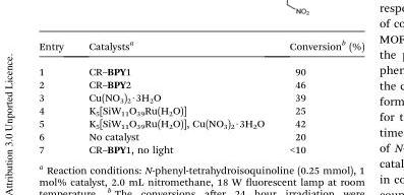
<table><thead><tr><td>Entry</td><td>Catalysts<sup>a</sup></td><td>Conversion<sup>b</sup> (%)</td></tr></thead><tbody><tr><td>1</td><td>CR–BPY1</td><td>90</td></tr><tr><td>2</td><td>CR–BPY2</td><td>46</td></tr><tr><td>3</td><td>Cu(NO<sub>3</sub>)<sub>2</sub>·3H<sub>2</sub>O</td><td>39</td></tr><tr><td>4</td><td>K<sub>5</sub>[SiW<sub>11</sub>O<sub>39</sub>Ru(H<sub>2</sub>O)]</td><td>25</td></tr><tr><td>5</td><td>K<sub>5</sub>[SiW<sub>11</sub>O<sub>39</sub>Ru(H<sub>2</sub>O)], Cu(NO<sub>3</sub>)<sub>2</sub>·3H<sub>2</sub>O</td><td>42</td></tr><tr><td>6</td><td>No catalyst</td><td>20</td></tr><tr><td>7</td><td>CR–BPY1, no light</td><td>&lt;10</td></tr></tbody></table>